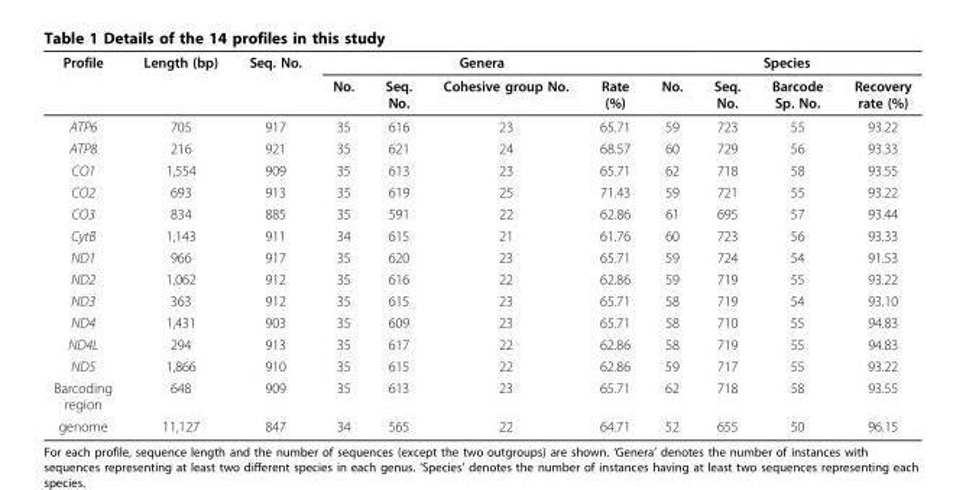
<table><thead><tr><td rowspan="2">Profile</td><td rowspan="2">Length (bp)</td><td rowspan="2">Seq. No.</td><td colspan="4">Genera</td><td colspan="4">Species</td></tr><tr><td>No.</td><td>Seq. No.</td><td>Cohesive group No.</td><td>Rate (%)</td><td>No.</td><td>Seq. No.</td><td>Barcode Sp. No.</td><td>Recovery rate (%)</td></tr></thead><tbody><tr><td>ATP6</td><td>705</td><td>917</td><td>35</td><td>616</td><td>23</td><td>65.71</td><td>59</td><td>723</td><td>55</td><td>93.22</td></tr><tr><td>ATP8</td><td>216</td><td>921</td><td>35</td><td>621</td><td>24</td><td>68.57</td><td>60</td><td>729</td><td>56</td><td>93.33</td></tr><tr><td>CO1</td><td>1,554</td><td>909</td><td>35</td><td>613</td><td>23</td><td>65.71</td><td>62</td><td>718</td><td>58</td><td>93.55</td></tr><tr><td>CO2</td><td>693</td><td>913</td><td>35</td><td>619</td><td>25</td><td>71.43</td><td>59</td><td>721</td><td>55</td><td>93.22</td></tr><tr><td>CO3</td><td>834</td><td>885</td><td>35</td><td>591</td><td>22</td><td>62.86</td><td>61</td><td>695</td><td>57</td><td>93.44</td></tr><tr><td>CytB</td><td>1,143</td><td>911</td><td>34</td><td>615</td><td>21</td><td>61.76</td><td>60</td><td>723</td><td>56</td><td>93.33</td></tr><tr><td>ND1</td><td>966</td><td>917</td><td>35</td><td>620</td><td>23</td><td>65.71</td><td>59</td><td>724</td><td>54</td><td>91.53</td></tr><tr><td>ND2</td><td>1,062</td><td>912</td><td>35</td><td>616</td><td>22</td><td>62.86</td><td>59</td><td>719</td><td>55</td><td>93.22</td></tr><tr><td>ND3</td><td>363</td><td>912</td><td>35</td><td>615</td><td>23</td><td>65.71</td><td>58</td><td>719</td><td>54</td><td>93.10</td></tr><tr><td>ND4</td><td>1,431</td><td>903</td><td>35</td><td>609</td><td>23</td><td>65.71</td><td>58</td><td>710</td><td>55</td><td>94.83</td></tr><tr><td>ND4L</td><td>294</td><td>913</td><td>35</td><td>617</td><td>22</td><td>62.86</td><td>58</td><td>719</td><td>55</td><td>94.83</td></tr><tr><td>ND5</td><td>1,866</td><td>910</td><td>35</td><td>615</td><td>22</td><td>62.86</td><td>59</td><td>717</td><td>55</td><td>93.22</td></tr><tr><td>Barcoding region</td><td>648</td><td>909</td><td>35</td><td>613</td><td>23</td><td>65.71</td><td>62</td><td>718</td><td>58</td><td>93.55</td></tr><tr><td>genome</td><td>11,127</td><td>847</td><td>34</td><td>565</td><td>22</td><td>64.71</td><td>52</td><td>655</td><td>50</td><td>96.15</td></tr></tbody></table>